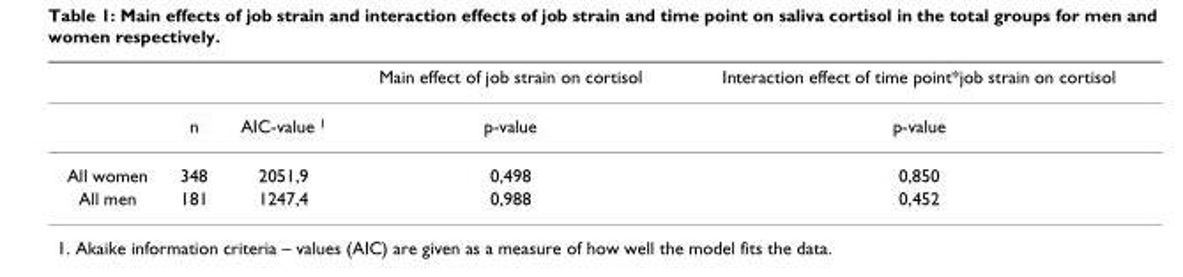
<table><thead><tr><td></td><td></td><td></td><td>Main effect of job strain on cortisol</td><td>Interaction effect of time point*job strain on cortisol</td></tr></thead><tbody><tr><td></td><td>n</td><td>AIC-value 1</td><td>p-value</td><td>p-value</td></tr><tr><td>All women</td><td>348</td><td>2051,9</td><td>0,498</td><td>0,850</td></tr><tr><td>All men</td><td>181</td><td>1247,4</td><td>0,988</td><td>0,452</td></tr></tbody></table>